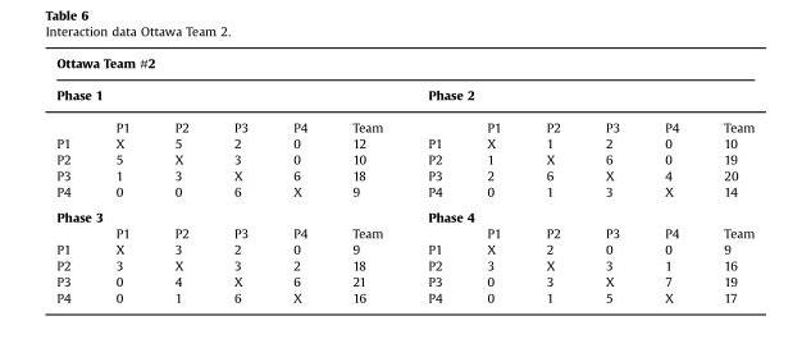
<table><thead><tr><td colspan="12">Ottawa Team #2</td></tr><tr><td colspan="6">Phase 1</td><td colspan="6">Phase 2</td></tr><tr><td></td><td>P1</td><td>P2</td><td>P3</td><td>P4</td><td>Team</td><td></td><td>P1</td><td>P2</td><td>P3</td><td>P4</td><td>Team</td></tr></thead><tbody><tr><td>P1</td><td>X</td><td>5</td><td>2</td><td>0</td><td>12</td><td>P1</td><td>X</td><td>1</td><td>2</td><td>0</td><td>10</td></tr><tr><td>P2</td><td>5</td><td>X</td><td>3</td><td>0</td><td>10</td><td>P2</td><td>1</td><td>X</td><td>6</td><td>0</td><td>19</td></tr><tr><td>P3</td><td>1</td><td>3</td><td>X</td><td>6</td><td>18</td><td>P3</td><td>2</td><td>6</td><td>X</td><td>4</td><td>20</td></tr><tr><td>P4</td><td>0</td><td>0</td><td>6</td><td>X</td><td>9</td><td>P4</td><td>0</td><td>1</td><td>3</td><td>X</td><td>14</td></tr><tr><td colspan="6">Phase 3</td><td colspan="6">Phase 4</td></tr><tr><td></td><td>P1</td><td>P2</td><td>P3</td><td>P4</td><td>Team</td><td></td><td>P1</td><td>P2</td><td>P3</td><td>P4</td><td>Team</td></tr><tr><td>P1</td><td>X</td><td>3</td><td>2</td><td>0</td><td>9</td><td>P1</td><td>X</td><td>2</td><td>0</td><td>0</td><td>9</td></tr><tr><td>P2</td><td>3</td><td>X</td><td>3</td><td>2</td><td>18</td><td>P2</td><td>3</td><td>X</td><td>3</td><td>1</td><td>16</td></tr><tr><td>P3</td><td>0</td><td>4</td><td>X</td><td>6</td><td>21</td><td>P3</td><td>0</td><td>3</td><td>X</td><td>7</td><td>19</td></tr><tr><td>P4</td><td>0</td><td>1</td><td>6</td><td>X</td><td>16</td><td>P4</td><td>0</td><td>1</td><td>5</td><td>X</td><td>17</td></tr></tbody></table>